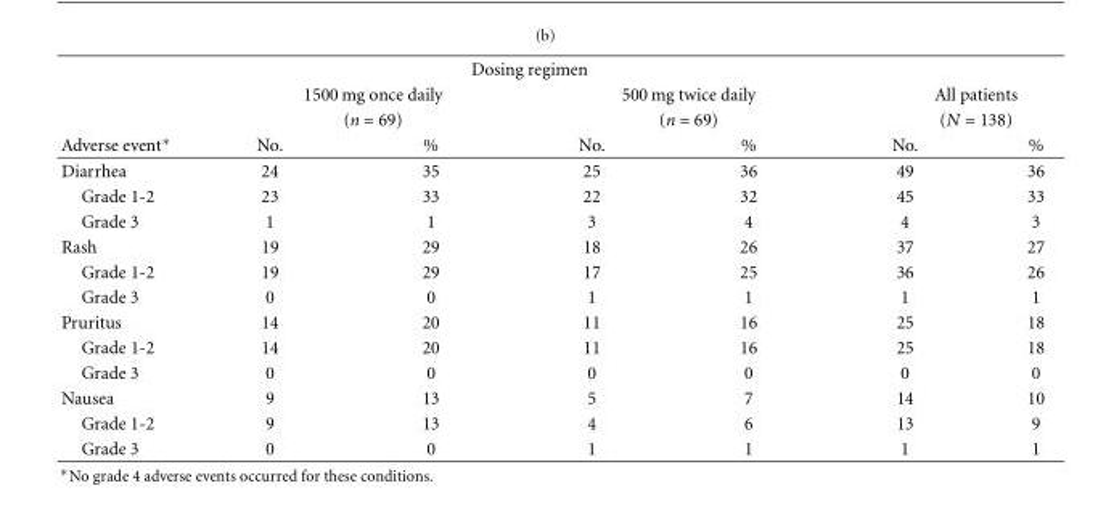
<table><thead><tr><td rowspan="4">Adverse event∗</td><td colspan="4">Dosing regimen</td><td></td><td></td></tr><tr><td rowspan="2" colspan="2">1500 mg once daily (n = 69)</td><td rowspan="2" colspan="2">500 mg twice daily (n = 69)</td><td rowspan="2" colspan="2">All patients (N = 138)</td></tr><tr></tr><tr><td>No.</td><td>%</td><td>No.</td><td>%</td><td>No.</td><td>%</td></tr></thead><tbody><tr><td>Diarrhea</td><td>24</td><td>35</td><td>25</td><td>36</td><td>49</td><td>36</td></tr><tr><td>Grade 1-2</td><td>23</td><td>33</td><td>22</td><td>32</td><td>45</td><td>33</td></tr><tr><td>Grade 3</td><td>1</td><td>1</td><td>3</td><td>4</td><td>4</td><td>3</td></tr><tr><td>Rash</td><td>19</td><td>29</td><td>18</td><td>26</td><td>37</td><td>27</td></tr><tr><td>Grade 1-2</td><td>19</td><td>29</td><td>17</td><td>25</td><td>36</td><td>26</td></tr><tr><td>Grade 3</td><td>0</td><td>0</td><td>1</td><td>1</td><td>1</td><td>1</td></tr><tr><td>Pruritus</td><td>14</td><td>20</td><td>11</td><td>16</td><td>25</td><td>18</td></tr><tr><td>Grade 1-2</td><td>14</td><td>20</td><td>11</td><td>16</td><td>25</td><td>18</td></tr><tr><td>Grade 3</td><td>0</td><td>0</td><td>0</td><td>0</td><td>0</td><td>0</td></tr><tr><td>Nausea</td><td>9</td><td>13</td><td>5</td><td>7</td><td>14</td><td>10</td></tr><tr><td>Grade 1-2</td><td>9</td><td>13</td><td>4</td><td>6</td><td>13</td><td>9</td></tr><tr><td>Grade 3</td><td>0</td><td>0</td><td>1</td><td>1</td><td>1</td><td>1</td></tr></tbody></table>